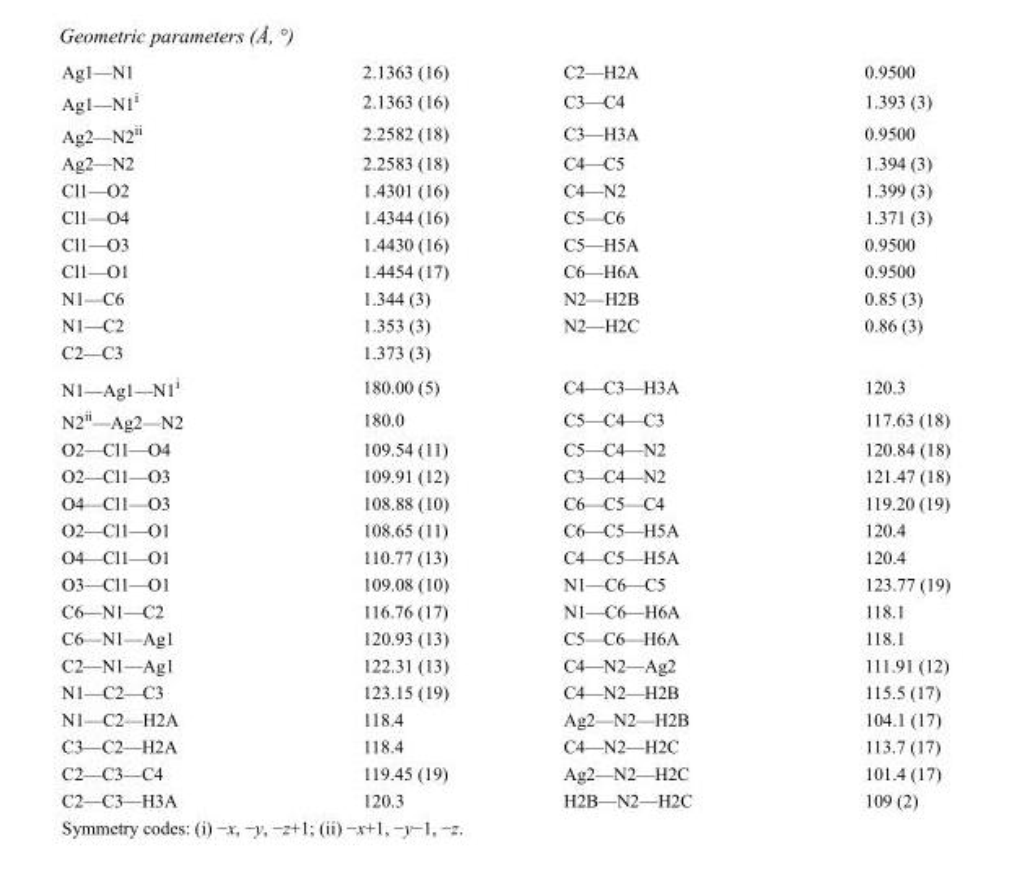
<table><tbody><tr><td>Ag1—N1</td><td>2.1363 (16)</td><td>C2—H2A</td><td>0.9500</td></tr><tr><td>Ag1—N1<sup>i</sup></td><td>2.1363 (16)</td><td>C3—C4</td><td>1.393 (3)</td></tr><tr><td>Ag2—N2<sup>ii</sup></td><td>2.2582 (18)</td><td>C3—H3A</td><td>0.9500</td></tr><tr><td>Ag2—N2</td><td>2.2583 (18)</td><td>C4—C5</td><td>1.394 (3)</td></tr><tr><td>Cl1—O2</td><td>1.4301 (16)</td><td>C4—N2</td><td>1.399 (3)</td></tr><tr><td>Cl1—O4</td><td>1.4344 (16)</td><td>C5—C6</td><td>1.371 (3)</td></tr><tr><td>Cl1—O3</td><td>1.4430 (16)</td><td>C5—H5A</td><td>0.9500</td></tr><tr><td>Cl1—O1</td><td>1.4454 (17)</td><td>C6—H6A</td><td>0.9500</td></tr><tr><td>N1—C6</td><td>1.344 (3)</td><td>N2—H2B</td><td>0.85 (3)</td></tr><tr><td>N1—C2</td><td>1.353 (3)</td><td>N2—H2C</td><td>0.86 (3)</td></tr><tr><td>C2—C3</td><td>1.373 (3)</td><td></td><td></td></tr><tr><td>N1—Ag1—N1<sup>i</sup></td><td>180.00 (5)</td><td>C4—C3—H3A</td><td>120.3</td></tr><tr><td>N2<sup>ii</sup>—Ag2—N2</td><td>180.0</td><td>C5—C4—C3</td><td>117.63 (18)</td></tr><tr><td>O2—Cl1—O4</td><td>109.54 (11)</td><td>C5—C4—N2</td><td>120.84 (18)</td></tr><tr><td>O2—Cl1—O3</td><td>109.91 (12)</td><td>C3—C4—N2</td><td>121.47 (18)</td></tr><tr><td>O4—Cl1—O3</td><td>108.88 (10)</td><td>C6—C5—C4</td><td>119.20 (19)</td></tr><tr><td>O2—Cl1—O1</td><td>108.65 (11)</td><td>C6—C5—H5A</td><td>120.4</td></tr><tr><td>O4—Cl1—O1</td><td>110.77 (13)</td><td>C4—C5—H5A</td><td>120.4</td></tr><tr><td>O3—Cl1—O1</td><td>109.08 (10)</td><td>N1—C6—C5</td><td>123.77 (19)</td></tr><tr><td>C6—N1—C2</td><td>116.76 (17)</td><td>N1—C6—H6A</td><td>118.1</td></tr><tr><td>C6—N1—Ag1</td><td>120.93 (13)</td><td>C5—C6—H6A</td><td>118.1</td></tr><tr><td>C2—N1—Ag1</td><td>122.31 (13)</td><td>C4—N2—Ag2</td><td>111.91 (12)</td></tr><tr><td>N1—C2—C3</td><td>123.15 (19)</td><td>C4—N2—H2B</td><td>115.5 (17)</td></tr><tr><td>N1—C2—H2A</td><td>118.4</td><td>Ag2—N2—H2B</td><td>104.1 (17)</td></tr><tr><td>C3—C2—H2A</td><td>118.4</td><td>C4—N2—H2C</td><td>113.7 (17)</td></tr><tr><td>C2—C3—C4</td><td>119.45 (19)</td><td>Ag2—N2—H2C</td><td>101.4 (17)</td></tr><tr><td>C2—C3—H3A</td><td>120.3</td><td>H2B—N2—H2C</td><td>109 (2)</td></tr></tbody></table>